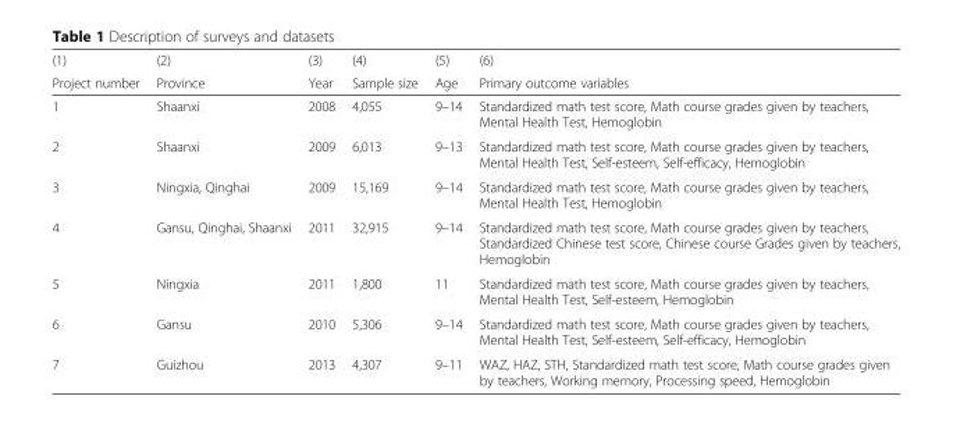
<table><thead><tr><td rowspan="2">(1) Project number</td><td rowspan="2">(2) Province</td><td rowspan="2">(3) Year</td><td rowspan="2">(4) Sample size</td><td rowspan="2">(5) Age</td><td rowspan="2">(6) Primary outcome variables</td></tr><tr></tr></thead><tbody><tr><td>1</td><td>Shaanxi</td><td>2008</td><td>4,055</td><td>9–14</td><td>Standardized math test score, Math course grades given by teachers, Mental Health Test, Hemoglobin</td></tr><tr><td>2</td><td>Shaanxi</td><td>2009</td><td>6,013</td><td>9–13</td><td>Standardized math test score, Math course grades given by teachers, Mental Health Test, Self-esteem, Self-efficacy, Hemoglobin</td></tr><tr><td>3</td><td>Ningxia, Qinghai</td><td>2009</td><td>15,169</td><td>9–14</td><td>Standardized math test score, Math course grades given by teachers, Mental Health Test, Hemoglobin</td></tr><tr><td>4</td><td>Gansu, Qinghai, Shaanxi</td><td>2011</td><td>32,915</td><td>9–14</td><td>Standardized math test score, Math course grades given by teachers, Standardized Chinese test score, Chinese course Grades given by teachers, Hemoglobin</td></tr><tr><td>5</td><td>Ningxia</td><td>2011</td><td>1,800</td><td>11</td><td>Standardized math test score, Math course grades given by teachers, Mental Health Test, Self-esteem, Hemoglobin</td></tr><tr><td>6</td><td>Gansu</td><td>2010</td><td>5,306</td><td>9–14</td><td>Standardized math test score, Math course grades given by teachers, Mental Health Test, Self-esteem, Self-efficacy, Hemoglobin</td></tr><tr><td>7</td><td>Guizhou</td><td>2013</td><td>4,307</td><td>9–11</td><td>WAZ, HAZ, STH, Standardized math test score, Math course grades given by teachers, Working memory, Processing speed, Hemoglobin</td></tr></tbody></table>